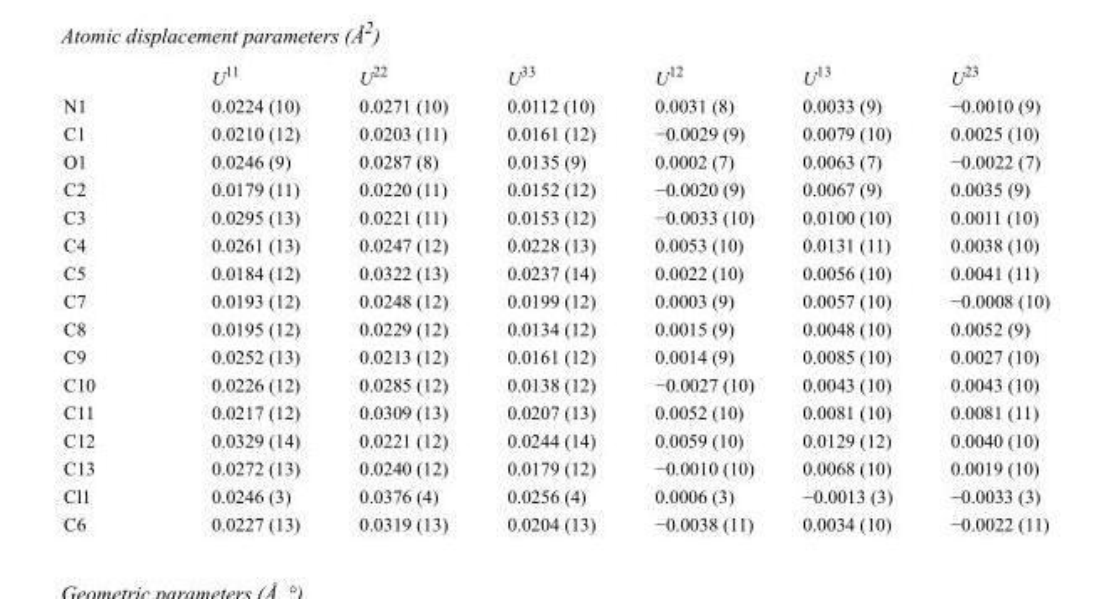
<table><thead><tr><td></td><td>U<sup>11</sup></td><td>U<sup>22</sup></td><td>U<sup>33</sup></td><td>U<sup>12</sup></td><td>U<sup>13</sup></td><td>U<sup>23</sup></td></tr></thead><tbody><tr><td>N1</td><td>0.0224 (10)</td><td>0.0271 (10)</td><td>0.0112 (10)</td><td>0.0031 (8)</td><td>0.0033 (9)</td><td>−0.0010 (9)</td></tr><tr><td>C1</td><td>0.0210 (12)</td><td>0.0203 (11)</td><td>0.0161 (12)</td><td>−0.0029 (9)</td><td>0.0079 (10)</td><td>0.0025 (10)</td></tr><tr><td>O1</td><td>0.0246 (9)</td><td>0.0287 (8)</td><td>0.0135 (9)</td><td>0.0002 (7)</td><td>0.0063 (7)</td><td>−0.0022 (7)</td></tr><tr><td>C2</td><td>0.0179 (11)</td><td>0.0220 (11)</td><td>0.0152 (12)</td><td>−0.0020 (9)</td><td>0.0067 (9)</td><td>0.0035 (9)</td></tr><tr><td>C3</td><td>0.0295 (13)</td><td>0.0221 (11)</td><td>0.0153 (12)</td><td>−0.0033 (10)</td><td>0.0100 (10)</td><td>0.0011 (10)</td></tr><tr><td>C4</td><td>0.0261 (13)</td><td>0.0247 (12)</td><td>0.0228 (13)</td><td>0.0053 (10)</td><td>0.0131 (11)</td><td>0.0038 (10)</td></tr><tr><td>C5</td><td>0.0184 (12)</td><td>0.0322 (13)</td><td>0.0237 (14)</td><td>0.0022 (10)</td><td>0.0056 (10)</td><td>0.0041 (11)</td></tr><tr><td>C7</td><td>0.0193 (12)</td><td>0.0248 (12)</td><td>0.0199 (12)</td><td>0.0003 (9)</td><td>0.0057 (10)</td><td>−0.0008 (10)</td></tr><tr><td>C8</td><td>0.0195 (12)</td><td>0.0229 (12)</td><td>0.0134 (12)</td><td>0.0015 (9)</td><td>0.0048 (10)</td><td>0.0052 (9)</td></tr><tr><td>C9</td><td>0.0252 (13)</td><td>0.0213 (12)</td><td>0.0161 (12)</td><td>0.0014 (9)</td><td>0.0085 (10)</td><td>0.0027 (10)</td></tr><tr><td>C10</td><td>0.0226 (12)</td><td>0.0285 (12)</td><td>0.0138 (12)</td><td>−0.0027 (10)</td><td>0.0043 (10)</td><td>0.0043 (10)</td></tr><tr><td>C11</td><td>0.0217 (12)</td><td>0.0309 (13)</td><td>0.0207 (13)</td><td>0.0052 (10)</td><td>0.0081 (10)</td><td>0.0081 (11)</td></tr><tr><td>C12</td><td>0.0329 (14)</td><td>0.0221 (12)</td><td>0.0244 (14)</td><td>0.0059 (10)</td><td>0.0129 (12)</td><td>0.0040 (10)</td></tr><tr><td>C13</td><td>0.0272 (13)</td><td>0.0240 (12)</td><td>0.0179 (12)</td><td>−0.0010 (10)</td><td>0.0068 (10)</td><td>0.0019 (10)</td></tr><tr><td>Cl1</td><td>0.0246 (3)</td><td>0.0376 (4)</td><td>0.0256 (4)</td><td>0.0006 (3)</td><td>−0.0013 (3)</td><td>−0.0033 (3)</td></tr><tr><td>C6</td><td>0.0227 (13)</td><td>0.0319 (13)</td><td>0.0204 (13)</td><td>−0.0038 (11)</td><td>0.0034 (10)</td><td>−0.0022 (11)</td></tr></tbody></table>